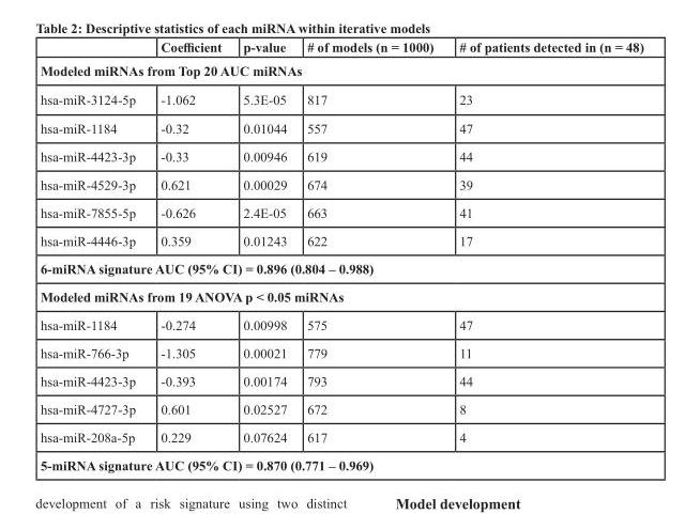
<table><thead><tr><td></td><td>Coefficient</td><td>p-value</td><td># of models (n = 1000)</td><td># of patients detected in (n = 48)</td></tr></thead><tbody><tr><td colspan="5">Modeled miRNAs from Top 20 AUC miRNAs</td></tr><tr><td>hsa-miR-3124-5p</td><td>-1.062</td><td>5.3E-05</td><td>817</td><td>23</td></tr><tr><td>hsa-miR-1184</td><td>-0.32</td><td>0.01044</td><td>557</td><td>47</td></tr><tr><td>hsa-miR-4423-3p</td><td>-0.33</td><td>0.00946</td><td>619</td><td>44</td></tr><tr><td>hsa-miR-4529-3p</td><td>0.621</td><td>0.00029</td><td>674</td><td>39</td></tr><tr><td>hsa-miR-7855-5p</td><td>-0.626</td><td>2.4E-05</td><td>663</td><td>41</td></tr><tr><td>hsa-miR-4446-3p</td><td>0.359</td><td>0.01243</td><td>622</td><td>17</td></tr><tr><td colspan="5">6-miRNA signature AUC (95% CI) = 0.896 (0.804 – 0.988)</td></tr><tr><td colspan="5">Modeled miRNAs from 19 ANOVA p &lt; 0.05 miRNAs</td></tr><tr><td>hsa-miR-1184</td><td>-0.274</td><td>0.00998</td><td>575</td><td>47</td></tr><tr><td>hsa-miR-766-3p</td><td>-1.305</td><td>0.00021</td><td>779</td><td>11</td></tr><tr><td>hsa-miR-4423-3p</td><td>-0.393</td><td>0.00174</td><td>793</td><td>44</td></tr><tr><td>hsa-miR-4727-3p</td><td>0.601</td><td>0.02527</td><td>672</td><td>8</td></tr><tr><td>hsa-miR-208a-5p</td><td>0.229</td><td>0.07624</td><td>617</td><td>4</td></tr><tr><td colspan="5">5-miRNA signature AUC (95% CI) = 0.870 (0.771 – 0.969)</td></tr></tbody></table>